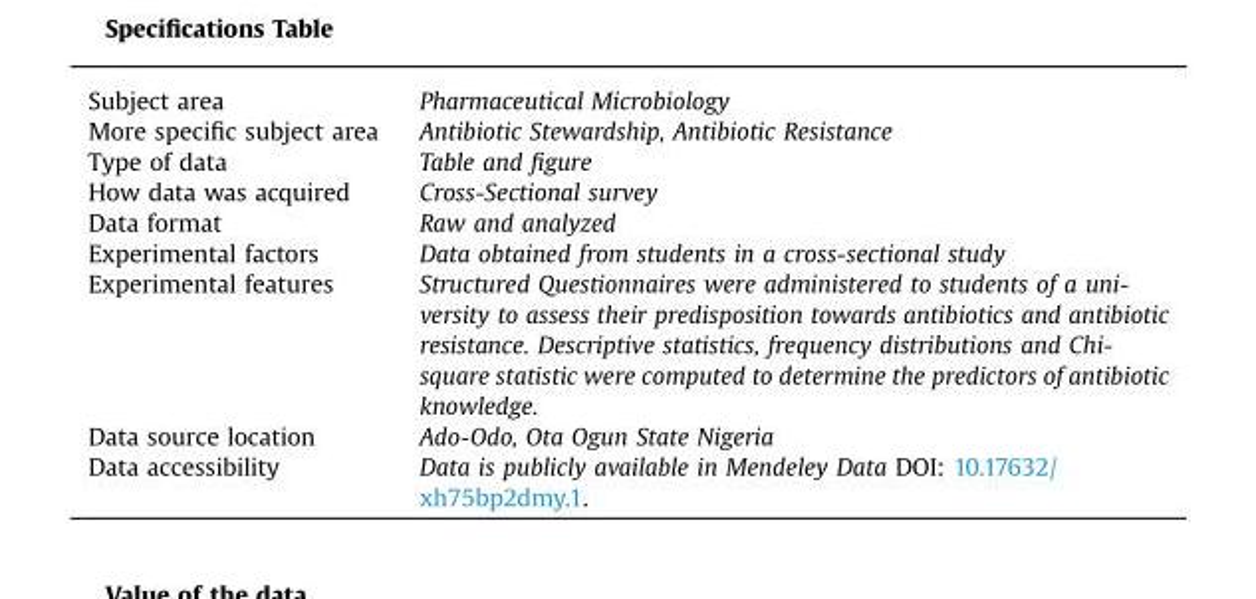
<table><tbody><tr><td>Subject area</td><td>Pharmaceutical Microbiology</td></tr><tr><td>More specific subject area</td><td>Antibiotic Stewardship, Antibiotic Resistance</td></tr><tr><td>Type of data</td><td>Table and figure</td></tr><tr><td>How data was acquired</td><td>Cross-Sectional survey</td></tr><tr><td>Data format</td><td>Raw and analyzed</td></tr><tr><td>Experimental factors</td><td>Data obtained from students in a cross-sectional study</td></tr><tr><td>Experimental features</td><td>Structured Questionnaires were administered to students of a uni- versity to assess their predisposition towards antibiotics and antibiotic resistance. Descriptive statistics, frequency distributions and Chi- square statistic were computed to determine the predictors of antibiotic knowledge.</td></tr><tr><td>Data source location</td><td>Ado-Odo, Ota Ogun State Nigeria</td></tr><tr><td>Data accessibility</td><td>Data is publicly available in Mendeley Data DOI: 10.17632/ xh75bp2dmy.1.</td></tr></tbody></table>